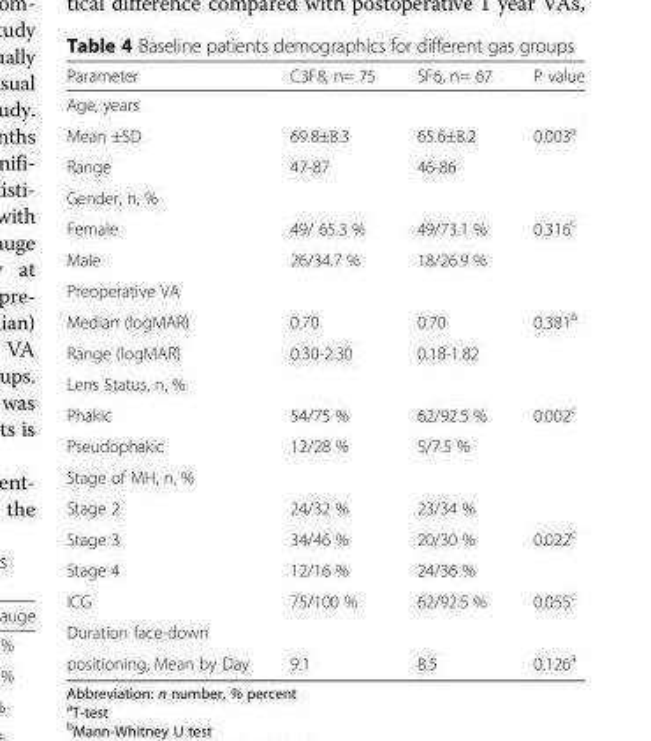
<table><thead><tr><td>Parameter</td><td>C3F8, n= 75</td><td>SF6, n= 67</td><td>P value</td></tr></thead><tbody><tr><td colspan="4">Age, years</td></tr><tr><td>Mean ±SD</td><td>69.8±8.3</td><td>65.6±8.2</td><td>0.003<sup>a</sup></td></tr><tr><td>Range</td><td>47-87</td><td>46-86</td><td></td></tr><tr><td colspan="4">Gender, n, %</td></tr><tr><td>Female</td><td>49/ 65.3 %</td><td>49/73.1 %</td><td>0.316<sup>c</sup></td></tr><tr><td>Male</td><td>26/34.7 %</td><td>18/26.9 %</td><td></td></tr><tr><td colspan="4">Preoperative VA</td></tr><tr><td>Median (logMAR)</td><td>0.70</td><td>0.70</td><td>0.381<sup>b</sup></td></tr><tr><td>Range (logMAR)</td><td>0.30-2.30</td><td>0.18-1.82</td><td></td></tr><tr><td colspan="4">Lens Status, n, %</td></tr><tr><td>Phakic</td><td>54/75 %</td><td>62/92.5 %</td><td>0.002<sup>c</sup></td></tr><tr><td>Pseudophakic</td><td>12/28 %</td><td>5/7.5 %</td><td></td></tr><tr><td colspan="4">Stage of MH, n, %</td></tr><tr><td>Stage 2</td><td>24/32 %</td><td>23/34 %</td><td></td></tr><tr><td>Stage 3</td><td>34/46 %</td><td>20/30 %</td><td>0.022<sup>c</sup></td></tr><tr><td>Stage 4</td><td>12/16 %</td><td>24/36 %</td><td></td></tr><tr><td>ICG</td><td>75/100 %</td><td>62/92.5 %</td><td>0.055<sup>c</sup></td></tr><tr><td colspan="4">Duration face-down</td></tr><tr><td>positioning, Mean by Day</td><td>9.1</td><td>8.5</td><td>0.126<sup>a</sup></td></tr></tbody></table>